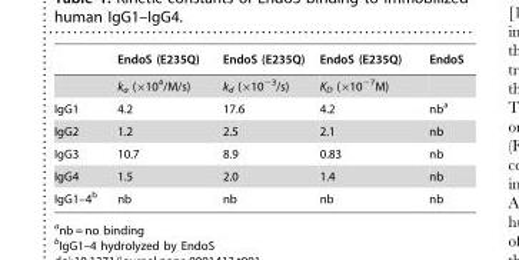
<table><thead><tr><td></td><td>EndoS (E235Q)</td><td>EndoS (E235Q)</td><td>EndoS (E235Q)</td><td>EndoS</td></tr></thead><tbody><tr><td></td><td>k<sub>a</sub> (×10<sup>4</sup>/M/s)</td><td>k<sub>d</sub> (×10<sup>−3</sup>/s)</td><td>K<sub>D</sub> (×10<sup>−7</sup>M)</td><td></td></tr><tr><td>IgG1</td><td>4.2</td><td>17.6</td><td>4.2</td><td>nb<sup>a</sup></td></tr><tr><td>IgG2</td><td>1.2</td><td>2.5</td><td>2.1</td><td>nb</td></tr><tr><td>IgG3</td><td>10.7</td><td>8.9</td><td>0.83</td><td>nb</td></tr><tr><td>IgG4</td><td>1.5</td><td>2.0</td><td>1.4</td><td>nb</td></tr><tr><td>IgG1–4<sup>b</sup></td><td>nb</td><td>nb</td><td>nb</td><td>nb</td></tr></tbody></table>